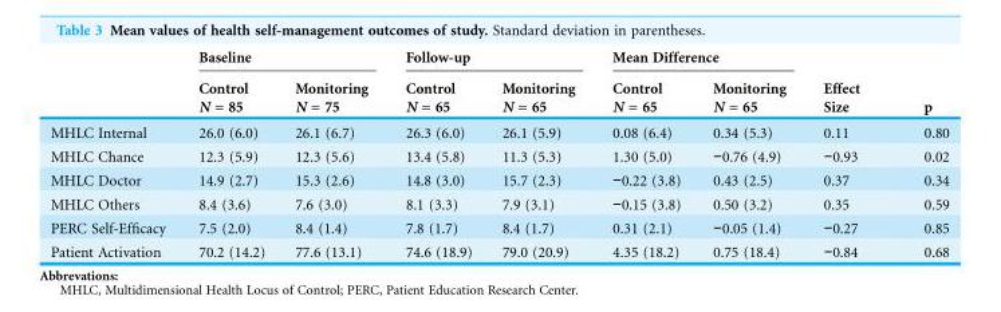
<table><thead><tr><td rowspan="2"></td><td colspan="2">Baseline</td><td colspan="2">Follow-up</td><td colspan="2">Mean Difference</td><td rowspan="2">Effect Size</td><td rowspan="2">p</td></tr><tr><td>Control N = 85</td><td>Monitoring N = 75</td><td>Control N = 65</td><td>Monitoring N = 65</td><td>Control N = 65</td><td>Monitoring N = 65</td></tr></thead><tbody><tr><td>MHLC Internal</td><td>26.0 (6.0)</td><td>26.1 (6.7)</td><td>26.3 (6.0)</td><td>26.1 (5.9)</td><td>0.08 (6.4)</td><td>0.34 (5.3)</td><td>0.11</td><td>0.80</td></tr><tr><td>MHLC Chance</td><td>12.3 (5.9)</td><td>12.3 (5.6)</td><td>13.4 (5.8)</td><td>11.3 (5.3)</td><td>1.30 (5.0)</td><td>−0.76 (4.9)</td><td>−0.93</td><td>0.02</td></tr><tr><td>MHLC Doctor</td><td>14.9 (2.7)</td><td>15.3 (2.6)</td><td>14.8 (3.0)</td><td>15.7 (2.3)</td><td>−0.22 (3.8)</td><td>0.43 (2.5)</td><td>0.37</td><td>0.34</td></tr><tr><td>MHLC Others</td><td>8.4 (3.6)</td><td>7.6 (3.0)</td><td>8.1 (3.3)</td><td>7.9 (3.1)</td><td>−0.15 (3.8)</td><td>0.50 (3.2)</td><td>0.35</td><td>0.59</td></tr><tr><td>PERC Self-Efficacy</td><td>7.5 (2.0)</td><td>8.4 (1.4)</td><td>7.8 (1.7)</td><td>8.4 (1.7)</td><td>0.31 (2.1)</td><td>−0.05 (1.4)</td><td>−0.27</td><td>0.85</td></tr><tr><td>Patient Activation</td><td>70.2 (14.2)</td><td>77.6 (13.1)</td><td>74.6 (18.9)</td><td>79.0 (20.9)</td><td>4.35 (18.2)</td><td>0.75 (18.4)</td><td>−0.84</td><td>0.68</td></tr></tbody></table>